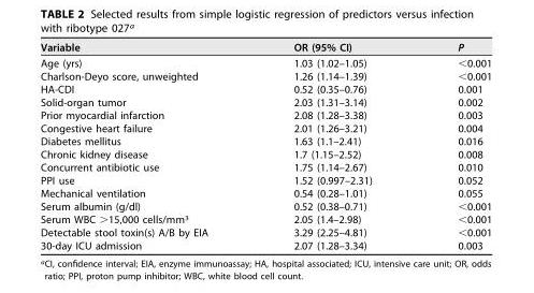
<table><thead><tr><td>Variable</td><td>OR (95% CI)</td><td>P</td></tr></thead><tbody><tr><td>Age (yrs)</td><td>1.03 (1.02–1.05)</td><td>&lt;0.001</td></tr><tr><td>Charlson-Deyo score, unweighted</td><td>1.26 (1.14–1.39)</td><td>&lt;0.001</td></tr><tr><td>HA-CDI</td><td>0.52 (0.35–0.76)</td><td>0.001</td></tr><tr><td>Solid-organ tumor</td><td>2.03 (1.31–3.14)</td><td>0.002</td></tr><tr><td>Prior myocardial infarction</td><td>2.08 (1.28–3.38)</td><td>0.003</td></tr><tr><td>Congestive heart failure</td><td>2.01 (1.26–3.21)</td><td>0.004</td></tr><tr><td>Diabetes mellitus</td><td>1.63 (1.1–2.41)</td><td>0.016</td></tr><tr><td>Chronic kidney disease</td><td>1.7 (1.15–2.52)</td><td>0.008</td></tr><tr><td>Concurrent antibiotic use</td><td>1.75 (1.14–2.67)</td><td>0.010</td></tr><tr><td>PPI use</td><td>1.52 (0.997–2.31)</td><td>0.052</td></tr><tr><td>Mechanical ventilation</td><td>0.54 (0.28–1.01)</td><td>0.055</td></tr><tr><td>Serum albumin (g/dl)</td><td>0.52 (0.38–0.71)</td><td>&lt;0.001</td></tr><tr><td>Serum WBC &gt;15,000 cells/mm<sup>3</sup></td><td>2.05 (1.4–2.98)</td><td>&lt;0.001</td></tr><tr><td>Detectable stool toxin(s) A/B by EIA</td><td>3.29 (2.25–4.81)</td><td>&lt;0.001</td></tr><tr><td>30-day ICU admission</td><td>2.07 (1.28–3.34)</td><td>0.003</td></tr></tbody></table>